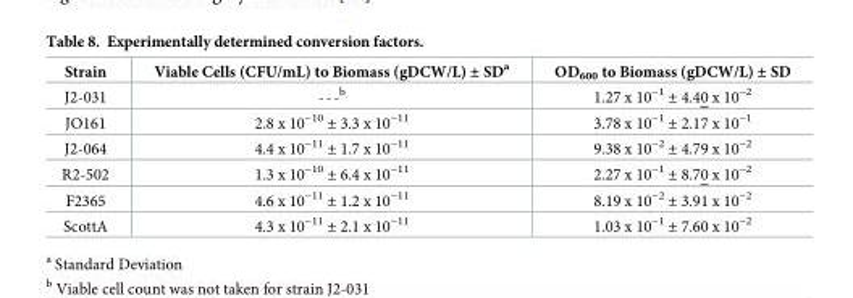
<table><thead><tr><td>Strain</td><td>Viable Cells (CFU/mL) to Biomass (gDCW/L) ± SD<sup>a</sup></td><td>OD<sub>600</sub> to Biomass (gDCW/L) ± SD</td></tr></thead><tbody><tr><td>J2-031</td><td>---<sup>b</sup></td><td>1.27 x 10<sup>−1</sup> ± 4.40 x 10<sup>−2</sup></td></tr><tr><td>JO161</td><td>2.8 x 10<sup>−10</sup> ± 3.3 x 10<sup>−11</sup></td><td>3.78 x 10<sup>−1</sup> ± 2.17 x 10<sup>−1</sup></td></tr><tr><td>J2-064</td><td>4.4 x 10<sup>−11</sup> ± 1.7 x 10<sup>−11</sup></td><td>9.38 x 10<sup>−2</sup> ± 4.79 x 10<sup>−2</sup></td></tr><tr><td>R2-502</td><td>1.3 x 10<sup>−10</sup> ± 6.4 x 10<sup>−11</sup></td><td>2.27 x 10<sup>−1</sup> ± 8.70 x 10<sup>−2</sup></td></tr><tr><td>F2365</td><td>4.6 x 10<sup>−11</sup> ± 1.2 x 10<sup>−11</sup></td><td>8.19 x 10<sup>−2</sup> ± 3.91 x 10<sup>−2</sup></td></tr><tr><td>ScottA</td><td>4.3 x 10<sup>−11</sup> ± 2.1 x 10<sup>−11</sup></td><td>1.03 x 10<sup>−1</sup> ± 7.60 x 10<sup>−2</sup></td></tr></tbody></table>